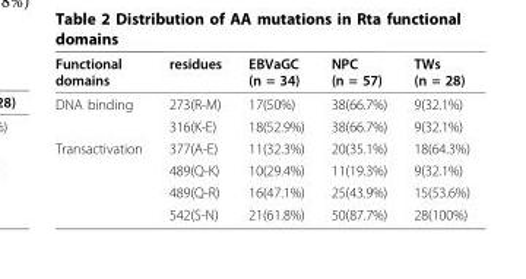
<table><thead><tr><td>Functional domains</td><td>residues</td><td>EBVaGC (n = 34)</td><td>NPC (n = 57)</td><td>TWs (n = 28)</td></tr></thead><tbody><tr><td rowspan="2">DNA binding</td><td>273(R-M)</td><td>17(50%)</td><td>38(66.7%)</td><td>9(32.1%)</td></tr><tr><td>316(K-E)</td><td>18(52.9%)</td><td>38(66.7%)</td><td>9(32.1%)</td></tr><tr><td rowspan="4">Transactivation</td><td>377(A-E)</td><td>11(32.3%)</td><td>20(35.1%)</td><td>18(64.3%)</td></tr><tr><td>489(Q-K)</td><td>10(29.4%)</td><td>11(19.3%)</td><td>9(32.1%)</td></tr><tr><td>489(Q-R)</td><td>16(47.1%)</td><td>25(43.9%)</td><td>15(53.6%)</td></tr><tr><td>542(S-N)</td><td>21(61.8%)</td><td>50(87.7%)</td><td>28(100%)</td></tr></tbody></table>